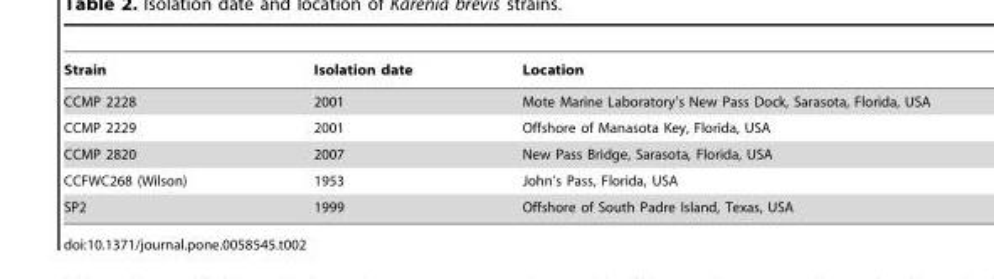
<table><thead><tr><td>Strain</td><td>Isolation date</td><td>Location</td></tr></thead><tbody><tr><td>CCMP 2228</td><td>2001</td><td>Mote Marine Laboratory’s New Pass Dock, Sarasota, Florida, USA</td></tr><tr><td>CCMP 2229</td><td>2001</td><td>Offshore of Manasota Key, Florida, USA</td></tr><tr><td>CCMP 2820</td><td>2007</td><td>New Pass Bridge, Sarasota, Florida, USA</td></tr><tr><td>CCFWC268 (Wilson)</td><td>1953</td><td>John’s Pass, Florida, USA</td></tr><tr><td>SP2</td><td>1999</td><td>Offshore of South Padre Island, Texas, USA</td></tr></tbody></table>